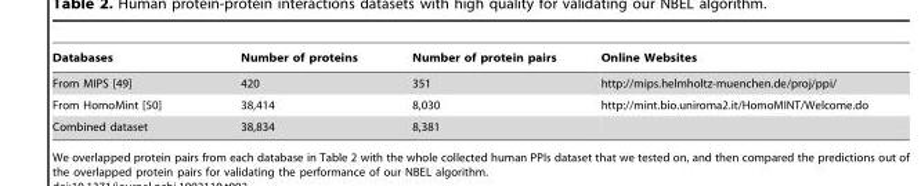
<table><thead><tr><td>Databases</td><td>Number of proteins</td><td>Number of protein pairs</td><td>Online Websites</td></tr></thead><tbody><tr><td>From MIPS [49]</td><td>420</td><td>351</td><td>http://mips.helmholtz-muenchen.de/proj/ppi/</td></tr><tr><td>From HomoMint [50]</td><td>38,414</td><td>8,030</td><td>http://mint.bio.uniroma2.it/HomoMINT/Welcome.do</td></tr><tr><td>Combined dataset</td><td>38,834</td><td>8,381</td><td></td></tr></tbody></table>